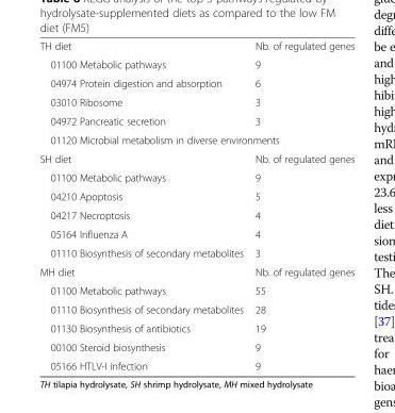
<table><tbody><tr><td>TH diet</td><td>Nb. of regulated genes</td></tr><tr><td>01100 Metabolic pathways</td><td>9</td></tr><tr><td>04974 Protein digestion and absorption</td><td>6</td></tr><tr><td>03010 Ribosome</td><td>3</td></tr><tr><td>04972 Pancreatic secretion</td><td>3</td></tr><tr><td colspan="2">01120 Microbial metabolism in diverse environments</td></tr><tr><td>SH diet</td><td>Nb. of regulated genes</td></tr><tr><td>01100 Metabolic pathways</td><td>9</td></tr><tr><td>04210 Apoptosis</td><td>5</td></tr><tr><td>04217 Necroptosis</td><td>4</td></tr><tr><td>05164 Influenza A</td><td>4</td></tr><tr><td>01110 Biosynthesis of secondary metabolites</td><td>3</td></tr><tr><td>MH diet</td><td>Nb. of regulated genes</td></tr><tr><td>01100 Metabolic pathways</td><td>55</td></tr><tr><td>01110 Biosynthesis of secondary metabolites</td><td>28</td></tr><tr><td>01130 Biosynthesis of antibiotics</td><td>19</td></tr><tr><td>00100 Steroid biosynthesis</td><td>9</td></tr><tr><td>05166 HTLV-I infection</td><td>9</td></tr></tbody></table>